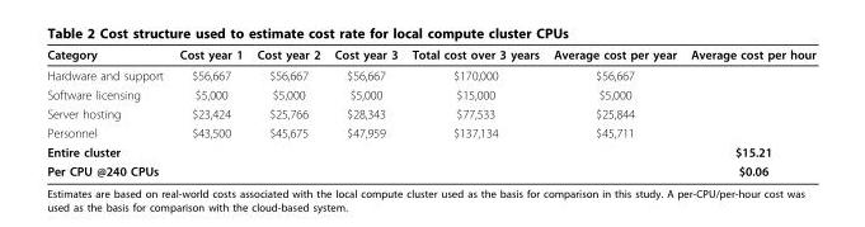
<table><thead><tr><td>Category</td><td>Cost year 1</td><td>Cost year 2</td><td>Cost year 3</td><td>Total cost over 3 years</td><td>Average cost per year</td><td>Average cost per hour</td></tr></thead><tbody><tr><td>Hardware and support</td><td>$56,667</td><td>$56,667</td><td>$56,667</td><td>$170,000</td><td>$56,667</td><td></td></tr><tr><td>Software licensing</td><td>$5,000</td><td>$5,000</td><td>$5,000</td><td>$15,000</td><td>$5,000</td><td></td></tr><tr><td>Server hosting</td><td>$23,424</td><td>$25,766</td><td>$28,343</td><td>$77,533</td><td>$25,844</td><td></td></tr><tr><td>Personnel</td><td>$43,500</td><td>$45,675</td><td>$47,959</td><td>$137,134</td><td>$45,711</td><td></td></tr><tr><td>Entire cluster</td><td></td><td></td><td></td><td></td><td></td><td>$15.21</td></tr><tr><td>Per CPU @240 CPUs</td><td></td><td></td><td></td><td></td><td></td><td>$0.06</td></tr></tbody></table>